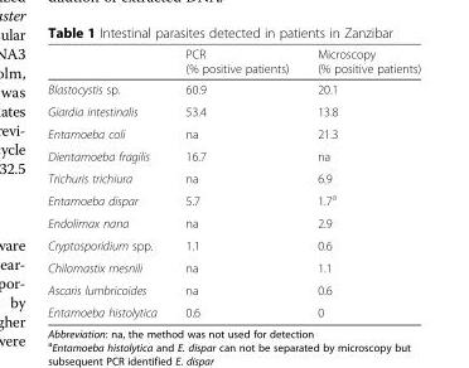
<table><thead><tr><td></td><td>PCR (% positive patients)</td><td>Microscopy (% positive patients)</td></tr></thead><tbody><tr><td>Blastocystis sp.</td><td>60.9</td><td>20.1</td></tr><tr><td>Giardia intestinalis</td><td>53.4</td><td>13.8</td></tr><tr><td>Entamoeba coli</td><td>na</td><td>21.3</td></tr><tr><td>Dientamoeba fragilis</td><td>16.7</td><td>na</td></tr><tr><td>Trichuris trichiura</td><td>na</td><td>6.9</td></tr><tr><td>Entamoeba dispar</td><td>5.7</td><td>1.7<sup>a</sup></td></tr><tr><td>Endolimax nana</td><td>na</td><td>2.9</td></tr><tr><td>Cryptosporidium spp.</td><td>1.1</td><td>0.6</td></tr><tr><td>Chilomastix mesnili</td><td>na</td><td>1.1</td></tr><tr><td>Ascaris lumbricoides</td><td>na</td><td>0.6</td></tr><tr><td>Entamoeba histolytica</td><td>0.6</td><td>0</td></tr></tbody></table>